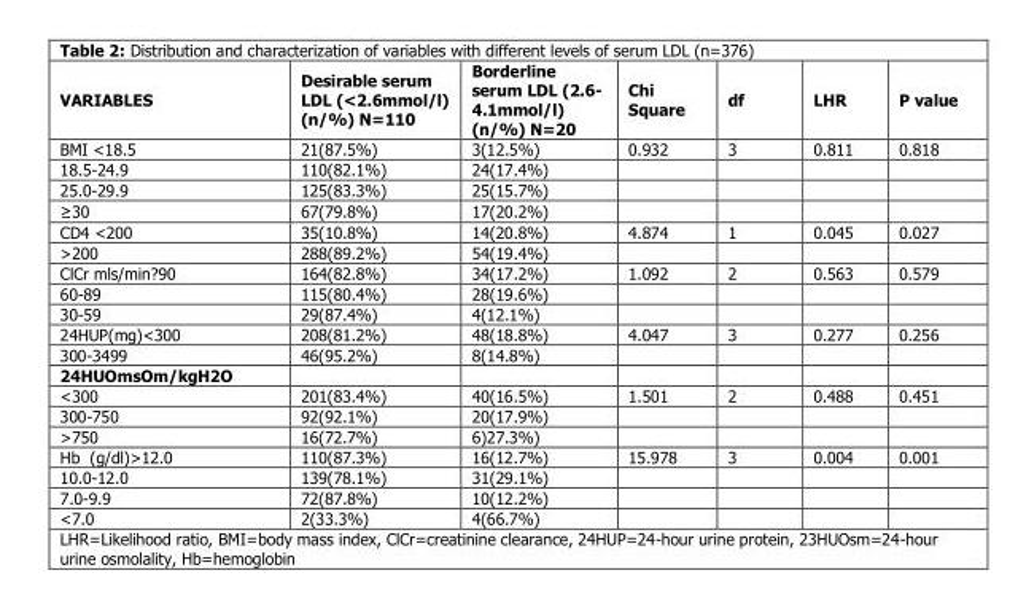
<table><thead><tr><td>VARIABLES</td><td>Desirable serum LDL (&lt;2.6mmol/l) (n/%) N=110</td><td>Borderline serum LDL (2.6- 4.1mmol/l) (n/%) N=20</td><td>Chi Square</td><td>df</td><td>LHR</td><td>P value</td></tr></thead><tbody><tr><td>BMI &lt;18.5</td><td>21(87.5%)</td><td>3(12.5%)</td><td>0.932</td><td>3</td><td>0.811</td><td>0.818</td></tr><tr><td>18.5-24.9</td><td>110(82.1%)</td><td>24(17.4%)</td><td></td><td></td><td></td><td></td></tr><tr><td>25.0-29.9</td><td>125(83.3%)</td><td>25(15.7%)</td><td></td><td></td><td></td><td></td></tr><tr><td>≥30</td><td>67(79.8%)</td><td>17(20.2%)</td><td></td><td></td><td></td><td></td></tr><tr><td>CD4 &lt;200</td><td>35(10.8%)</td><td>14(20.8%)</td><td>4.874</td><td>1</td><td>0.045</td><td>0.027</td></tr><tr><td>&gt;200</td><td>288(89.2%)</td><td>54(19.4%)</td><td></td><td></td><td></td><td></td></tr><tr><td>ClCr mls/min?90</td><td>164(82.8%)</td><td>34(17.2%)</td><td>1.092</td><td>2</td><td>0.563</td><td>0.579</td></tr><tr><td>60-89</td><td>115(80.4%)</td><td>28(19.6%)</td><td></td><td></td><td></td><td></td></tr><tr><td>30-59</td><td>29(87.4%)</td><td>4(12.1%)</td><td></td><td></td><td></td><td></td></tr><tr><td>24HUP(mg)&lt;300</td><td>208(81.2%)</td><td>48(18.8%)</td><td>4.047</td><td>3</td><td>0.277</td><td>0.256</td></tr><tr><td>300-3499</td><td>46(95.2%)</td><td>8(14.8%)</td><td></td><td></td><td></td><td></td></tr><tr><td colspan="7">24HUOmsOm/kgH2O</td></tr><tr><td>&lt;300</td><td>201(83.4%)</td><td>40(16.5%)</td><td>1.501</td><td>2</td><td>0.488</td><td>0.451</td></tr><tr><td>300-750</td><td>92(92.1%)</td><td>20(17.9%)</td><td></td><td></td><td></td><td></td></tr><tr><td>&gt;750</td><td>16(72.7%)</td><td>6)27.3%)</td><td></td><td></td><td></td><td></td></tr><tr><td>Hb (g/dl)&gt;12.0</td><td>110(87.3%)</td><td>16(12.7%)</td><td>15.978</td><td>3</td><td>0.004</td><td>0.001</td></tr><tr><td>10.0-12.0</td><td>139(78.1%)</td><td>31(29.1%)</td><td></td><td></td><td></td><td></td></tr><tr><td>7.0-9.9</td><td>72(87.8%)</td><td>10(12.2%)</td><td></td><td></td><td></td><td></td></tr><tr><td>&lt;7.0</td><td>2(33.3%)</td><td>4(66.7%)</td><td></td><td></td><td></td><td></td></tr></tbody></table>